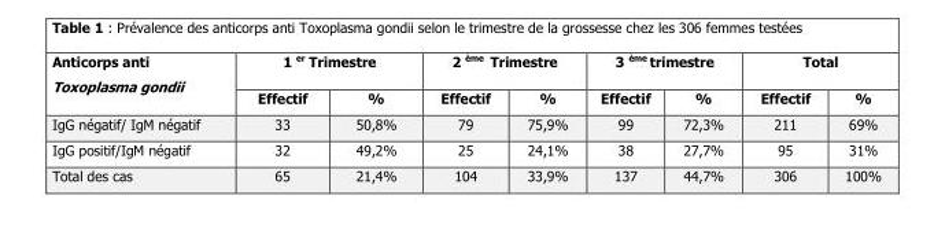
<table><thead><tr><td rowspan="2">Anticorps anti Toxoplasma gondii</td><td colspan="2">1 <sup>er</sup> Trimestre</td><td colspan="2">2 <sup>ème</sup> Trimestre</td><td colspan="2">3 <sup>ème</sup> trimestre</td><td colspan="2">Total</td></tr><tr><td>Effectif</td><td>%</td><td>Effectif</td><td>%</td><td>Effectif</td><td>%</td><td>Effectif</td><td>%</td></tr></thead><tbody><tr><td>IgG négatif/ IgM négatif</td><td>33</td><td>50,8%</td><td>79</td><td>75,9%</td><td>99</td><td>72,3%</td><td>211</td><td>69%</td></tr><tr><td>IgG positif/IgM négatif</td><td>32</td><td>49,2%</td><td>25</td><td>24,1%</td><td>38</td><td>27,7%</td><td>95</td><td>31%</td></tr><tr><td>Total des cas</td><td>65</td><td>21,4%</td><td>104</td><td>33,9%</td><td>137</td><td>44,7%</td><td>306</td><td>100%</td></tr></tbody></table>